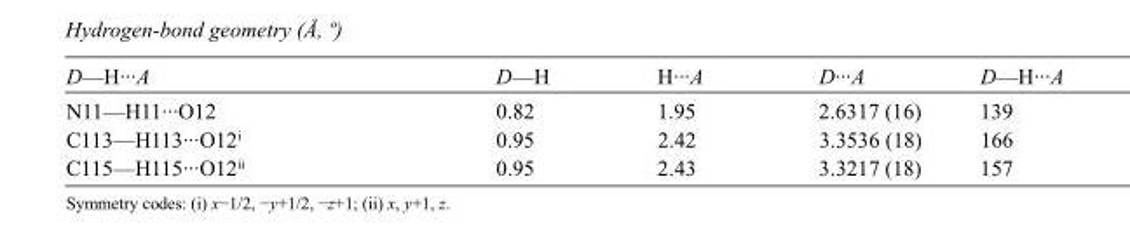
<table><tbody><tr><td>D—H···A</td><td>D—H</td><td>H···A</td><td>D···A</td><td>D—H···A</td></tr><tr><td>N11—H11···O12</td><td>0.82</td><td>1.95</td><td>2.6317 (16)</td><td>139</td></tr><tr><td>C113—H113···O12<sup>i</sup></td><td>0.95</td><td>2.42</td><td>3.3536 (18)</td><td>166</td></tr><tr><td>C115—H115···O12<sup>ii</sup></td><td>0.95</td><td>2.43</td><td>3.3217 (18)</td><td>157</td></tr></tbody></table>